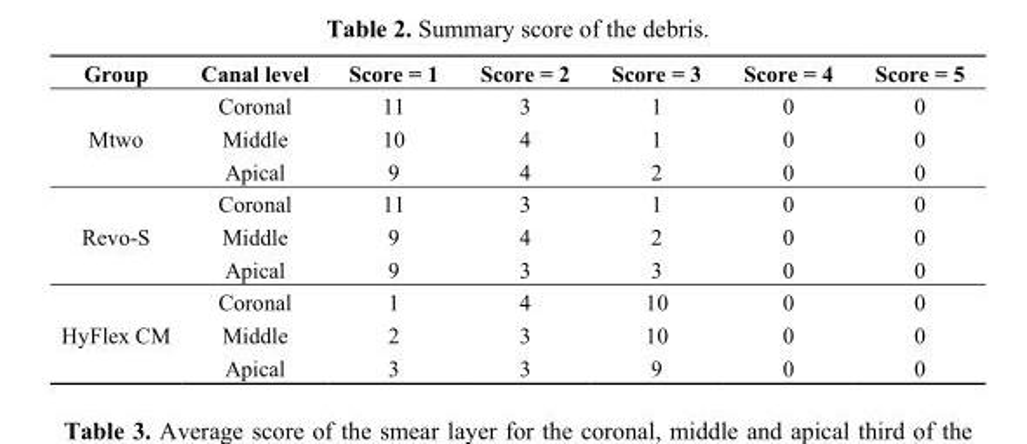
<table><thead><tr><td>Group</td><td>Canal level</td><td>Score = 1</td><td>Score = 2</td><td>Score = 3</td><td>Score = 4</td><td>Score = 5</td></tr></thead><tbody><tr><td rowspan="3">Mtwo</td><td>Coronal</td><td>11</td><td>3</td><td>1</td><td>0</td><td>0</td></tr><tr><td>Middle</td><td>10</td><td>4</td><td>1</td><td>0</td><td>0</td></tr><tr><td>Apical</td><td>9</td><td>4</td><td>2</td><td>0</td><td>0</td></tr><tr><td rowspan="3">Revo-S</td><td>Coronal</td><td>11</td><td>3</td><td>1</td><td>0</td><td>0</td></tr><tr><td>Middle</td><td>9</td><td>4</td><td>2</td><td>0</td><td>0</td></tr><tr><td>Apical</td><td>9</td><td>3</td><td>3</td><td>0</td><td>0</td></tr><tr><td rowspan="3">HyFlex CM</td><td>Coronal</td><td>1</td><td>4</td><td>10</td><td>0</td><td>0</td></tr><tr><td>Middle</td><td>2</td><td>3</td><td>10</td><td>0</td><td>0</td></tr><tr><td>Apical</td><td>3</td><td>3</td><td>9</td><td>0</td><td>0</td></tr></tbody></table>